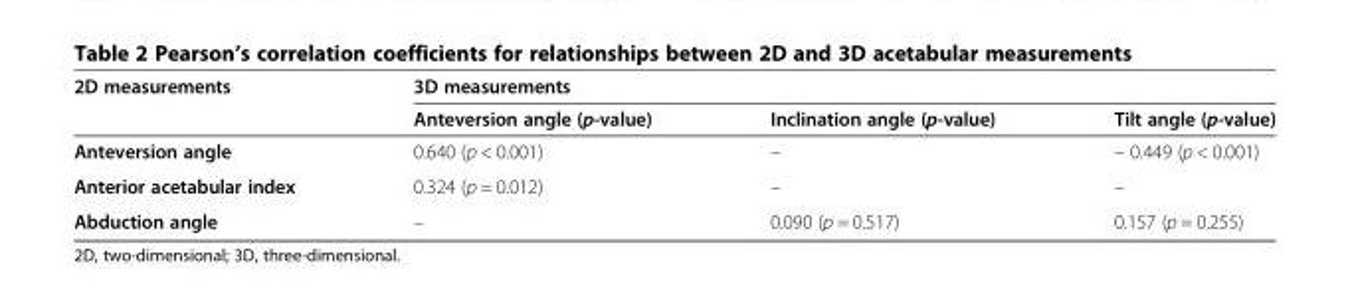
<table><thead><tr><td rowspan="2">2D measurements</td><td colspan="3">3D measurements</td></tr><tr><td>Anteversion angle (p-value)</td><td>Inclination angle (p-value)</td><td>Tilt angle (p-value)</td></tr></thead><tbody><tr><td>Anteversion angle</td><td>0.640 (p &lt; 0.001)</td><td>–</td><td>– 0.449 (p &lt; 0.001)</td></tr><tr><td>Anterior acetabular index</td><td>0.324 (p = 0.012)</td><td>–</td><td>–</td></tr><tr><td>Abduction angle</td><td>–</td><td>0.090 (p = 0.517)</td><td>0.157 (p = 0.255)</td></tr></tbody></table>